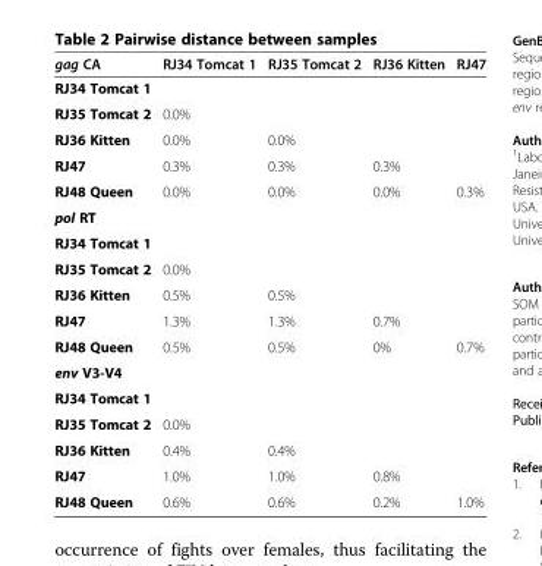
<table><thead><tr><td>gag CA</td><td>RJ34 Tomcat 1</td><td>RJ35 Tomcat 2</td><td>RJ36 Kitten</td><td>RJ47</td></tr></thead><tbody><tr><td colspan="5">RJ34 Tomcat 1</td></tr><tr><td>RJ35 Tomcat 2</td><td>0.0%</td><td></td><td></td><td></td></tr><tr><td>RJ36 Kitten</td><td>0.0%</td><td>0.0%</td><td></td><td></td></tr><tr><td>RJ47</td><td>0.3%</td><td>0.3%</td><td>0.3%</td><td></td></tr><tr><td>RJ48 Queen</td><td>0.0%</td><td>0.0%</td><td>0.0%</td><td>0.3%</td></tr><tr><td colspan="5">pol RT</td></tr><tr><td colspan="5">RJ34 Tomcat 1</td></tr><tr><td>RJ35 Tomcat 2</td><td>0.0%</td><td></td><td></td><td></td></tr><tr><td>RJ36 Kitten</td><td>0.5%</td><td>0.5%</td><td></td><td></td></tr><tr><td>RJ47</td><td>1.3%</td><td>1.3%</td><td>0.7%</td><td></td></tr><tr><td>RJ48 Queen</td><td>0.5%</td><td>0.5%</td><td>0%</td><td>0.7%</td></tr><tr><td colspan="5">env V3-V4</td></tr><tr><td colspan="5">RJ34 Tomcat 1</td></tr><tr><td>RJ35 Tomcat 2</td><td>0.0%</td><td></td><td></td><td></td></tr><tr><td>RJ36 Kitten</td><td>0.4%</td><td>0.4%</td><td></td><td></td></tr><tr><td>RJ47</td><td>1.0%</td><td>1.0%</td><td>0.8%</td><td></td></tr><tr><td>RJ48 Queen</td><td>0.6%</td><td>0.6%</td><td>0.2%</td><td>1.0%</td></tr></tbody></table>